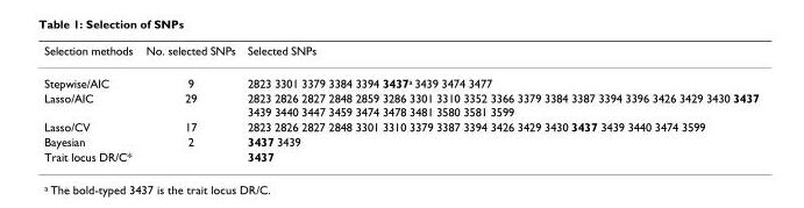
<table><thead><tr><td>Selection methods</td><td>No. selected SNPs</td><td>Selected SNPs</td></tr></thead><tbody><tr><td>Stepwise/AIC</td><td>9</td><td>2823 3301 3379 3384 3394 3437<sup>a</sup> 3439 3474 3477</td></tr><tr><td>Lasso/AIC</td><td>29</td><td>2823 2826 2827 2848 2859 3286 3301 3310 3352 3366 3379 3384 3387 3394 3396 3426 3429 3430 3437 3439 3440 3447 3459 3474 3478 3481 3580 3581 3599</td></tr><tr><td>Lasso/CV</td><td>17</td><td>2823 2826 2827 2848 3301 3310 3379 3387 3394 3426 3429 3430 3437 3439 3440 3474 3599</td></tr><tr><td>Bayesian</td><td>2</td><td>3437 3439</td></tr><tr><td>Trait locus DR/C*</td><td></td><td>3437</td></tr></tbody></table>